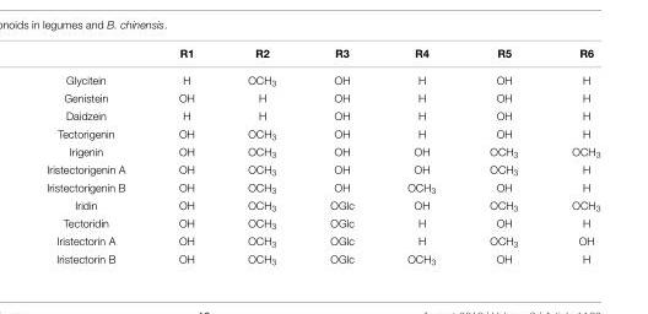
<table><thead><tr><td></td><td>R1</td><td>R2</td><td>R3</td><td>R4</td><td>R5</td><td>R6</td></tr></thead><tbody><tr><td>Glycitein</td><td>H</td><td>OCH<sub>3</sub></td><td>OH</td><td>H</td><td>OH</td><td>H</td></tr><tr><td>Genistein</td><td>OH</td><td>H</td><td>OH</td><td>H</td><td>OH</td><td>H</td></tr><tr><td>Daidzein</td><td>H</td><td>H</td><td>OH</td><td>H</td><td>OH</td><td>H</td></tr><tr><td>Tectorigenin</td><td>OH</td><td>OCH<sub>3</sub></td><td>OH</td><td>H</td><td>OH</td><td>H</td></tr><tr><td>Irigenin</td><td>OH</td><td>OCH<sub>3</sub></td><td>OH</td><td>OH</td><td>OCH<sub>3</sub></td><td>OCH<sub>3</sub></td></tr><tr><td>Iristectorigenin A</td><td>OH</td><td>OCH<sub>3</sub></td><td>OH</td><td>OH</td><td>OCH<sub>3</sub></td><td>H</td></tr><tr><td>Iristectorigenin B</td><td>OH</td><td>OCH<sub>3</sub></td><td>OH</td><td>OCH<sub>3</sub></td><td>OH</td><td>H</td></tr><tr><td>Iridin</td><td>OH</td><td>OCH<sub>3</sub></td><td>OGlc</td><td>OH</td><td>OCH<sub>3</sub></td><td>OCH<sub>3</sub></td></tr><tr><td>Tectoridin</td><td>OH</td><td>OCH<sub>3</sub></td><td>OGlc</td><td>H</td><td>OH</td><td>H</td></tr><tr><td>Iristectorin A</td><td>OH</td><td>OCH<sub>3</sub></td><td>OGlc</td><td>H</td><td>OCH<sub>3</sub></td><td>OH</td></tr><tr><td>Iristectorin B</td><td>OH</td><td>OCH<sub>3</sub></td><td>OGlc</td><td>OCH<sub>3</sub></td><td>OH</td><td>H</td></tr></tbody></table>